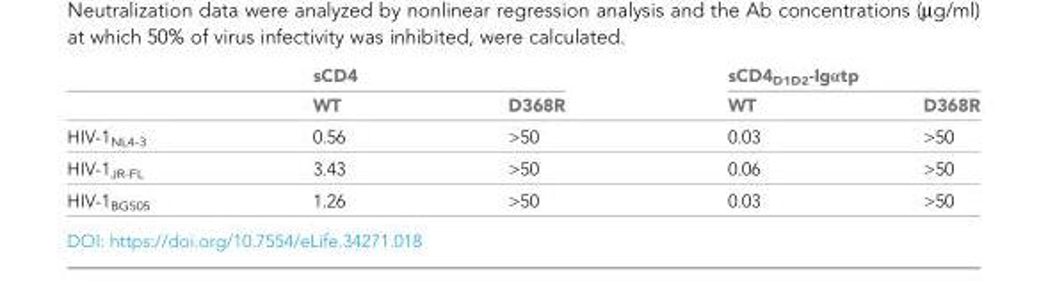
<table><thead><tr><td rowspan="2"></td><td colspan="2">sCD4</td><td colspan="2">sCD4<sub>D1D2</sub>-Igαtp</td></tr><tr><td>WT</td><td>D368R</td><td>WT</td><td>D368R</td></tr></thead><tbody><tr><td>HIV-1<sub>NL4-3</sub></td><td>0.56</td><td>&gt;50</td><td>0.03</td><td>&gt;50</td></tr><tr><td>HIV-1<sub>JR-FL</sub></td><td>3.43</td><td>&gt;50</td><td>0.06</td><td>&gt;50</td></tr><tr><td>HIV-1<sub>BG505</sub></td><td>1.26</td><td>&gt;50</td><td>0.03</td><td>&gt;50</td></tr></tbody></table>